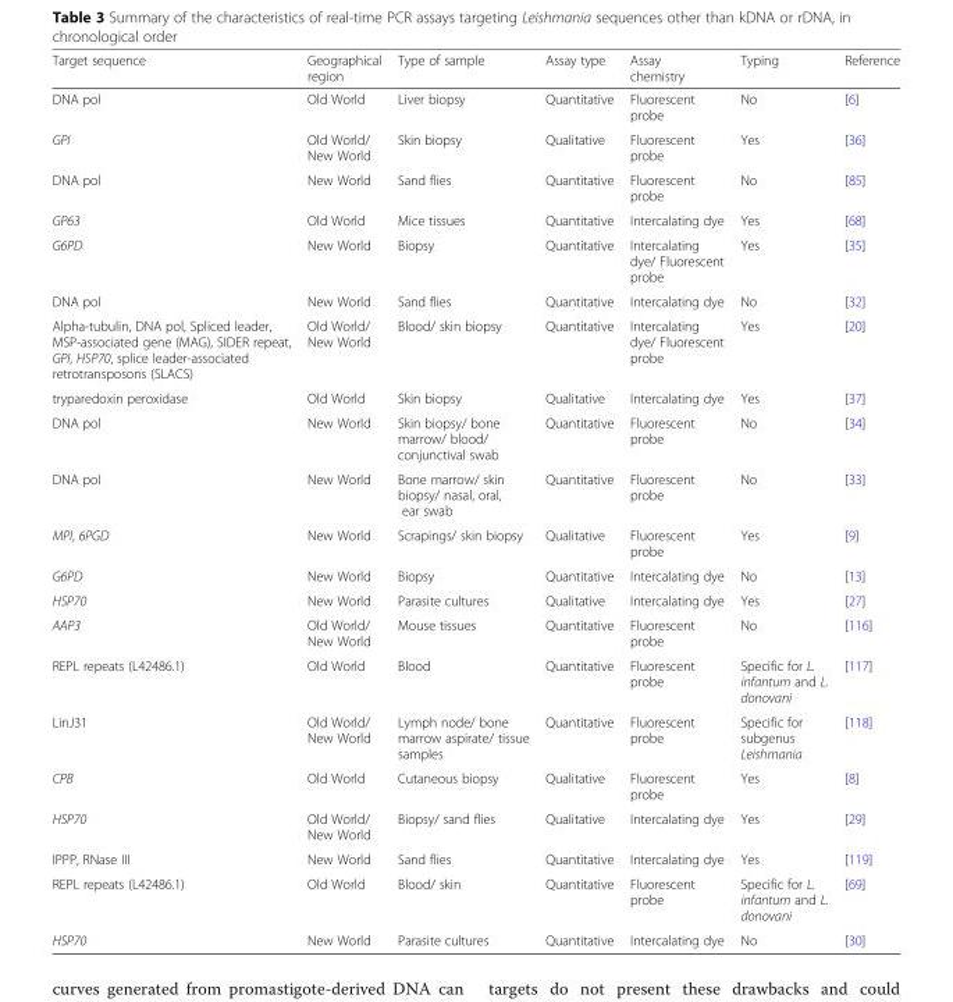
<table><thead><tr><td>Target sequence</td><td>Geographical region</td><td>Type of sample</td><td>Assay type</td><td>Assay chemistry</td><td>Typing</td><td>Reference</td></tr></thead><tbody><tr><td>DNA pol</td><td>Old World</td><td>Liver biopsy</td><td>Quantitative</td><td>Fluorescent probe</td><td>No</td><td>[6]</td></tr><tr><td>GPI</td><td>Old World/ New World</td><td>Skin biopsy</td><td>Qualitative</td><td>Fluorescent probe</td><td>Yes</td><td>[36]</td></tr><tr><td>DNA pol</td><td>New World</td><td>Sand flies</td><td>Quantitative</td><td>Fluorescent probe</td><td>No</td><td>[85]</td></tr><tr><td>GP63</td><td>Old World</td><td>Mice tissues</td><td>Quantitative</td><td>Intercalating dye</td><td>Yes</td><td>[68]</td></tr><tr><td>G6PD</td><td>New World</td><td>Biopsy</td><td>Quantitative</td><td>Intercalating dye/ Fluorescent probe</td><td>Yes</td><td>[35]</td></tr><tr><td>DNA pol</td><td>New World</td><td>Sand flies</td><td>Quantitative</td><td>Intercalating dye</td><td>No</td><td>[32]</td></tr><tr><td>Alpha-tubulin, DNA pol, Spliced leader, MSP-associated gene (MAG), SIDER repeat, GPI, HSP70, splice leader-associated retrotransposons (SLACS)</td><td>Old World/ New World</td><td>Blood/ skin biopsy</td><td>Quantitative</td><td>Intercalating dye/ Fluorescent probe</td><td>Yes</td><td>[20]</td></tr><tr><td>tryparedoxin peroxidase</td><td>Old World</td><td>Skin biopsy</td><td>Qualitative</td><td>Intercalating dye</td><td>Yes</td><td>[37]</td></tr><tr><td>DNA pol</td><td>New World</td><td>Skin biopsy/ bone marrow/ blood/ conjunctival swab</td><td>Quantitative</td><td>Fluorescent probe</td><td>No</td><td>[34]</td></tr><tr><td>DNA pol</td><td>New World</td><td>Bone marrow/ skin biopsy/ nasal, oral, ear swab</td><td>Quantitative</td><td>Fluorescent probe</td><td>No</td><td>[33]</td></tr><tr><td>MPI, 6PGD</td><td>New World</td><td>Scrapings/ skin biopsy</td><td>Qualitative</td><td>Fluorescent probe</td><td>Yes</td><td>[9]</td></tr><tr><td>G6PD</td><td>New World</td><td>Biopsy</td><td>Quantitative</td><td>Intercalating dye</td><td>No</td><td>[13]</td></tr><tr><td>HSP70</td><td>New World</td><td>Parasite cultures</td><td>Qualitative</td><td>Intercalating dye</td><td>Yes</td><td>[27]</td></tr><tr><td>AAP3</td><td>Old World/ New World</td><td>Mouse tissues</td><td>Quantitative</td><td>Fluorescent probe</td><td>No</td><td>[116]</td></tr><tr><td>REPL repeats (L42486.1)</td><td>Old World</td><td>Blood</td><td>Quantitative</td><td>Fluorescent probe</td><td>Specific for L. infantum and L. donovani</td><td>[117]</td></tr><tr><td>LinJ31</td><td>Old World/ New World</td><td>Lymph node/ bone marrow aspirate/ tissue samples</td><td>Quantitative</td><td>Fluorescent probe</td><td>Specific for subgenus Leishmania</td><td>[118]</td></tr><tr><td>CPB</td><td>Old World</td><td>Cutaneous biopsy</td><td>Qualitative</td><td>Fluorescent probe</td><td>Yes</td><td>[8]</td></tr><tr><td>HSP70</td><td>Old World/ New World</td><td>Biopsy/ sand flies</td><td>Qualitative</td><td>Intercalating dye</td><td>Yes</td><td>[29]</td></tr><tr><td>IPPP, RNase III</td><td>New World</td><td>Sand flies</td><td>Quantitative</td><td>Intercalating dye</td><td>Yes</td><td>[119]</td></tr><tr><td>REPL repeats (L42486.1)</td><td>Old World</td><td>Blood/ skin</td><td>Quantitative</td><td>Fluorescent probe</td><td>Specific for L. infantum and L. donovani</td><td>[69]</td></tr><tr><td>HSP70</td><td>New World</td><td>Parasite cultures</td><td>Quantitative</td><td>Intercalating dye</td><td>No</td><td>[30]</td></tr></tbody></table>